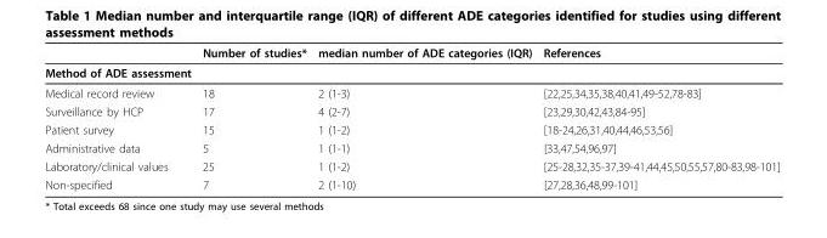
<table><thead><tr><td></td><td>Number of studies*</td><td>median number of ADE categories (IQR)</td><td>References</td></tr></thead><tbody><tr><td colspan="4">Method of ADE assessment</td></tr><tr><td>Medical record review</td><td>18</td><td>2 (1-3)</td><td>[22,25,34,35,38,40,41,49-52,78-83]</td></tr><tr><td>Surveillance by HCP</td><td>17</td><td>4 (2-7)</td><td>[23,29,30,42,43,84-95]</td></tr><tr><td>Patient survey</td><td>15</td><td>1 (1-2)</td><td>[18-24,26,31,40,44,46,53,56]</td></tr><tr><td>Administrative data</td><td>5</td><td>1 (1-1)</td><td>[33,47,54,96,97]</td></tr><tr><td>Laboratory/clinical values</td><td>25</td><td>1 (1-2)</td><td>[25-28,32,35-37,39-41,44,45,50,55,57,80-83,98-101]</td></tr><tr><td>Non-specified</td><td>7</td><td>2 (1-10)</td><td>[27,28,36,48,99-101]</td></tr></tbody></table>